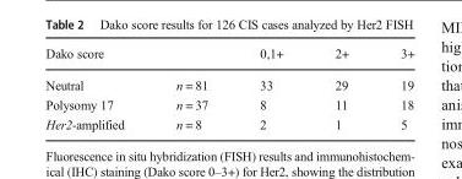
<table><thead><tr><td colspan="2">Dako score</td><td rowspan="2">0,1+ 33</td><td rowspan="2">2+ 29</td><td rowspan="2">3+ 19</td></tr><tr><td>Neutral</td><td>n = 81</td></tr></thead><tbody><tr><td>Polysomy 17</td><td>n = 37</td><td>8</td><td>11</td><td>18</td></tr><tr><td>Her2-amplified</td><td>n = 8</td><td>2</td><td>1</td><td>5</td></tr></tbody></table>